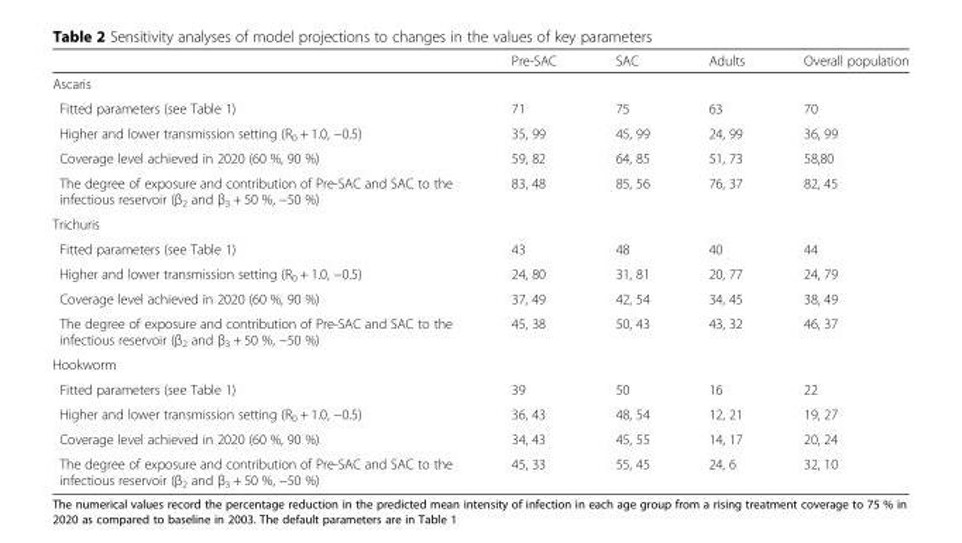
<table><thead><tr><td></td><td>Pre-SAC</td><td>SAC</td><td>Adults</td><td>Overall population</td></tr></thead><tbody><tr><td colspan="5">Ascaris</td></tr><tr><td>Fitted parameters (see Table 1)</td><td>71</td><td>75</td><td>63</td><td>70</td></tr><tr><td>Higher and lower transmission setting (R<sub>0</sub> + 1.0, −0.5)</td><td>35, 99</td><td>45, 99</td><td>24, 99</td><td>36, 99</td></tr><tr><td>Coverage level achieved in 2020 (60 %, 90 %)</td><td>59, 82</td><td>64, 85</td><td>51, 73</td><td>58,80</td></tr><tr><td>The degree of exposure and contribution of Pre-SAC and SAC to the infectious reservoir (β<sub>2</sub> and β<sub>3</sub> + 50 %, −50 %)</td><td>83, 48</td><td>85, 56</td><td>76, 37</td><td>82, 45</td></tr><tr><td colspan="5">Trichuris</td></tr><tr><td>Fitted parameters (see Table 1)</td><td>43</td><td>48</td><td>40</td><td>44</td></tr><tr><td>Higher and lower transmission setting (R<sub>0</sub> + 1.0, −0.5)</td><td>24, 80</td><td>31, 81</td><td>20, 77</td><td>24, 79</td></tr><tr><td>Coverage level achieved in 2020 (60 %, 90 %)</td><td>37, 49</td><td>42, 54</td><td>34, 45</td><td>38, 49</td></tr><tr><td>The degree of exposure and contribution of Pre-SAC and SAC to the infectious reservoir (β<sub>2</sub> and β<sub>3</sub> + 50 %, −50 %)</td><td>45, 38</td><td>50, 43</td><td>43, 32</td><td>46, 37</td></tr><tr><td colspan="5">Hookworm</td></tr><tr><td>Fitted parameters (see Table 1)</td><td>39</td><td>50</td><td>16</td><td>22</td></tr><tr><td>Higher and lower transmission setting (R<sub>0</sub> + 1.0, −0.5)</td><td>36, 43</td><td>48, 54</td><td>12, 21</td><td>19, 27</td></tr><tr><td>Coverage level achieved in 2020 (60 %, 90 %)</td><td>34, 43</td><td>45, 55</td><td>14, 17</td><td>20, 24</td></tr><tr><td>The degree of exposure and contribution of Pre-SAC and SAC to the infectious reservoir (β<sub>2</sub> and β<sub>3</sub> + 50 %, −50 %)</td><td>45, 33</td><td>55, 45</td><td>24, 6</td><td>32, 10</td></tr></tbody></table>